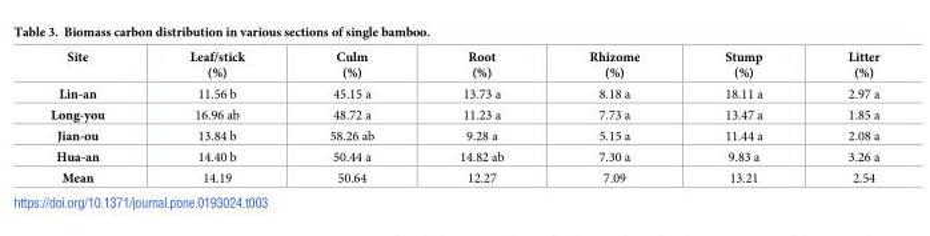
<table><thead><tr><td>Site</td><td>Leaf/stick (%)</td><td>Culm (%)</td><td>Root (%)</td><td>Rhizome (%)</td><td>Stump (%)</td><td>Litter (%)</td></tr></thead><tbody><tr><td>Lin-an</td><td>11.56 b</td><td>45.15 a</td><td>13.73 a</td><td>8.18 a</td><td>18.11 a</td><td>2.97 a</td></tr><tr><td>Long-you</td><td>16.96 ab</td><td>48.72 a</td><td>11.23 a</td><td>7.73 a</td><td>13.47 a</td><td>1.85 a</td></tr><tr><td>Jian-ou</td><td>13.84 b</td><td>58.26 ab</td><td>9.28 a</td><td>5.15 a</td><td>11.44 a</td><td>2.08 a</td></tr><tr><td>Hua-an</td><td>14.40 b</td><td>50.44 a</td><td>14.82 ab</td><td>7.30 a</td><td>9.83 a</td><td>3.26 a</td></tr><tr><td>Mean</td><td>14.19</td><td>50.64</td><td>12.27</td><td>7.09</td><td>13.21</td><td>2.54</td></tr></tbody></table>